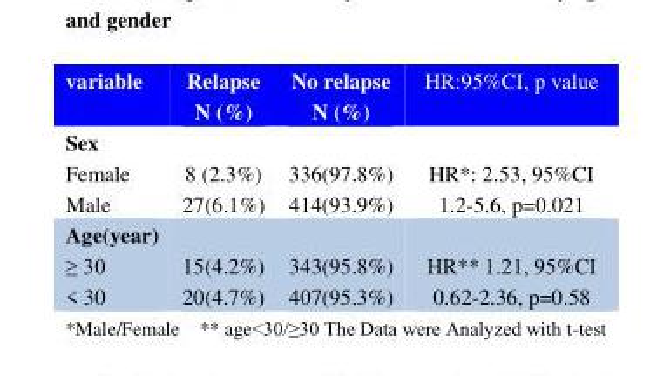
<table><thead><tr><td>variable</td><td>Relapse N (%)</td><td>No relapse N (%)</td><td>HR:95%CI, p value</td></tr></thead><tbody><tr><td colspan="4">Sex</td></tr><tr><td>Female Male</td><td>8 (2.3%) 27(6.1%)</td><td>336(97.8%) 414(93.9%)</td><td>HR*: 2.53, 95%CI 1.2-5.6, p=0.021</td></tr><tr><td colspan="4">Age(year)</td></tr><tr><td>≥ 30 &lt; 30</td><td>15(4.2%) 20(4.7%)</td><td>343(95.8%) 407(95.3%)</td><td>HR** 1.21, 95%CI 0.62-2.36, p=0.58</td></tr></tbody></table>